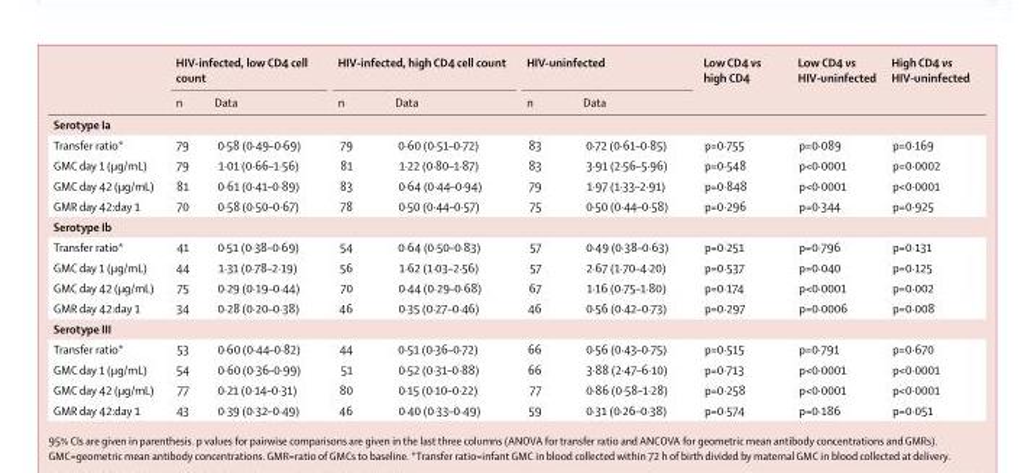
<table><thead><tr><td rowspan="2"></td><td colspan="2">HIV-infected, low CD4 cell count</td><td colspan="2">HIV-infected, high CD4 cell count</td><td colspan="2">HIV-uninfected</td><td rowspan="2">Low CD4 vs high CD4</td><td rowspan="2">Low CD4 vs HIV-uninfected</td><td rowspan="2">High CD4 vs HIV-uninfected</td></tr><tr><td>n</td><td>Data</td><td>n</td><td>Data</td><td>n</td><td>Data</td></tr></thead><tbody><tr><td colspan="10">Serotype Ia</td></tr><tr><td>Transfer ratio*</td><td>79</td><td>0·58 (0·49–0·69)</td><td>79</td><td>0·60 (0·51–0·72)</td><td>83</td><td>0·72 (0·61–0·85)</td><td>p=0·755</td><td>p=0·089</td><td>p=0·169</td></tr><tr><td>GMC day 1 (μg/mL)</td><td>79</td><td>1·01 (0·66–1·56)</td><td>81</td><td>1·22 (0·80–1·87)</td><td>83</td><td>3·91 (2·56–5·96)</td><td>p=0·548</td><td>p&lt;0·0001</td><td>p=0·0002</td></tr><tr><td>GMC day 42 (μg/mL)</td><td>81</td><td>0·61 (0·41–0·89)</td><td>83</td><td>0·64 (0·44–0·94)</td><td>79</td><td>1·97 (1·33–2·91)</td><td>p=0·848</td><td>p&lt;0·0001</td><td>p&lt;0·0001</td></tr><tr><td>GMR day 42:day 1</td><td>70</td><td>0·58 (0·50–0·67)</td><td>78</td><td>0·50 (0·44–0·57)</td><td>75</td><td>0·50 (0·44–0·58)</td><td>p=0·296</td><td>p=0·344</td><td>p=0·925</td></tr><tr><td colspan="10">Serotype Ib</td></tr><tr><td>Transfer ratio*</td><td>41</td><td>0·51 (0·38–0·69)</td><td>54</td><td>0·64 (0·50–0·83)</td><td>57</td><td>0·49 (0·38–0·63)</td><td>p=0·251</td><td>p=0·796</td><td>p=0·131</td></tr><tr><td>GMC day 1 (μg/mL)</td><td>44</td><td>1·31 (0·78–2·19)</td><td>56</td><td>1·62 (1·03–2·56)</td><td>57</td><td>2·67 (1·70–4·20)</td><td>p=0·537</td><td>p=0·040</td><td>p=0·125</td></tr><tr><td>GMC day 42 (μg/mL)</td><td>75</td><td>0·29 (0·19–0·44)</td><td>70</td><td>0·44 (0·29–0·68)</td><td>67</td><td>1·16 (0·75–1·80)</td><td>p=0·174</td><td>p&lt;0·0001</td><td>p=0·002</td></tr><tr><td>GMR day 42:day 1</td><td>34</td><td>0·28 (0·20–0·38)</td><td>46</td><td>0·35 (0·27–0·46)</td><td>46</td><td>0·56 (0·42–0·73)</td><td>p=0·297</td><td>p=0·0006</td><td>p=0·008</td></tr><tr><td colspan="10">Serotype III</td></tr><tr><td>Transfer ratio*</td><td>53</td><td>0·60 (0·44–0·82)</td><td>44</td><td>0·51 (0·36–0·72)</td><td>66</td><td>0·56 (0·43–0·75)</td><td>p=0·515</td><td>p=0·791</td><td>p=0·670</td></tr><tr><td>GMC day 1 (μg/mL)</td><td>54</td><td>0·60 (0·36–0·99)</td><td>51</td><td>0·52 (0·31–0·88)</td><td>66</td><td>3·88 (2·47–6·10)</td><td>p=0·713</td><td>p&lt;0·0001</td><td>p&lt;0·0001</td></tr><tr><td>GMC day 42 (μg/mL)</td><td>77</td><td>0·21 (0·14–0·31)</td><td>80</td><td>0·15 (0·10–0·22)</td><td>77</td><td>0·86 (0·58–1·28)</td><td>p=0·258</td><td>p&lt;0·0001</td><td>p&lt;0·0001</td></tr><tr><td>GMR day 42:day 1</td><td>43</td><td>0·39 (0·32–0·49)</td><td>46</td><td>0·40 (0·33–0·49)</td><td>59</td><td>0·31 (0·26–0·38)</td><td>p=0·574</td><td>p=0·186</td><td>p=0·051</td></tr></tbody></table>